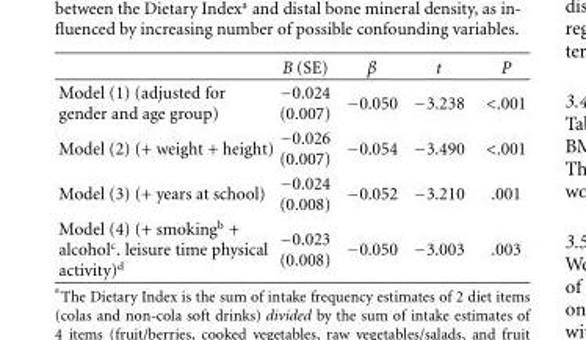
<table><thead><tr><td></td><td>B (SE)</td><td>β</td><td>t</td><td>P</td></tr></thead><tbody><tr><td>Model (1) (adjusted for gender and age group)</td><td>−0.024 (0.007)</td><td>−0.050</td><td>−3.238</td><td>&lt;.001</td></tr><tr><td>Model (2) (+ weight + height)</td><td>−0.026 (0.007)</td><td>−0.054</td><td>−3.490</td><td>&lt;.001</td></tr><tr><td>Model (3) (+ years at school)</td><td>−0.024 (0.008)</td><td>−0.052</td><td>−3.210</td><td>.001</td></tr><tr><td>Model (4) (+ smoking<sup>b</sup> + alcohol<sup>c</sup>. leisure time physical activity)<sup>d</sup></td><td>−0.023 (0.008)</td><td>−0.050</td><td>−3.003</td><td>.003</td></tr></tbody></table>